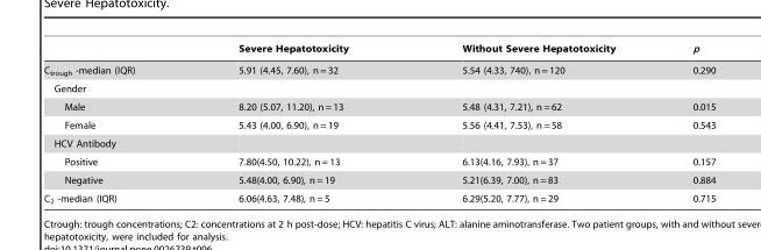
<table><thead><tr><td></td><td>Severe Hepatotoxicity</td><td>Without Severe Hepatotoxicity</td><td>p</td></tr></thead><tbody><tr><td>C<sub>trough</sub> -median (IQR)</td><td>5.91 (4.45, 7.60), n = 32</td><td>5.54 (4.33, 740), n = 120</td><td>0.290</td></tr><tr><td colspan="4">Gender</td></tr><tr><td>Male</td><td>8.20 (5.07, 11.20), n = 13</td><td>5.48 (4.31, 7.21), n = 62</td><td>0.015</td></tr><tr><td>Female</td><td>5.43 (4.00, 6.90), n = 19</td><td>5.56 (4.41, 7.53), n = 58</td><td>0.543</td></tr><tr><td colspan="4">HCV Antibody</td></tr><tr><td>Positive</td><td>7.80(4.50, 10.22), n = 13</td><td>6.13(4.16, 7.93), n = 37</td><td>0.157</td></tr><tr><td>Negative</td><td>5.48(4.00, 6.90), n = 19</td><td>5.21(6.39, 7.00), n = 83</td><td>0.884</td></tr><tr><td>C<sub>2</sub> -median (IQR)</td><td>6.06(4.63, 7.48), n = 5</td><td>6.29(5.20, 7.77), n = 29</td><td>0.715</td></tr></tbody></table>